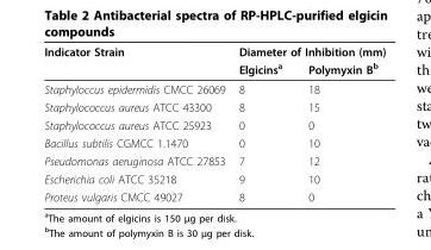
<table><thead><tr><td rowspan="2">Indicator Strain</td><td colspan="2">Diameter of Inhibition (mm)</td></tr><tr><td>Elgicins<sup>a</sup></td><td>Polymyxin B<sup>b</sup></td></tr></thead><tbody><tr><td>Staphyloccus epidermidis CMCC 26069</td><td>8</td><td>18</td></tr><tr><td>Staphylococcus aureus ATCC 43300</td><td>8</td><td>15</td></tr><tr><td>Staphylococcus aureus ATCC 25923</td><td>0</td><td>0</td></tr><tr><td>Bacillus subtilis CGMCC 1.1470</td><td>0</td><td>10</td></tr><tr><td>Pseudomonas aeruginosa ATCC 27853</td><td>7</td><td>12</td></tr><tr><td>Escherichia coli ATCC 35218</td><td>9</td><td>10</td></tr><tr><td>Proteus vulgaris CMCC 49027</td><td>8</td><td>0</td></tr></tbody></table>